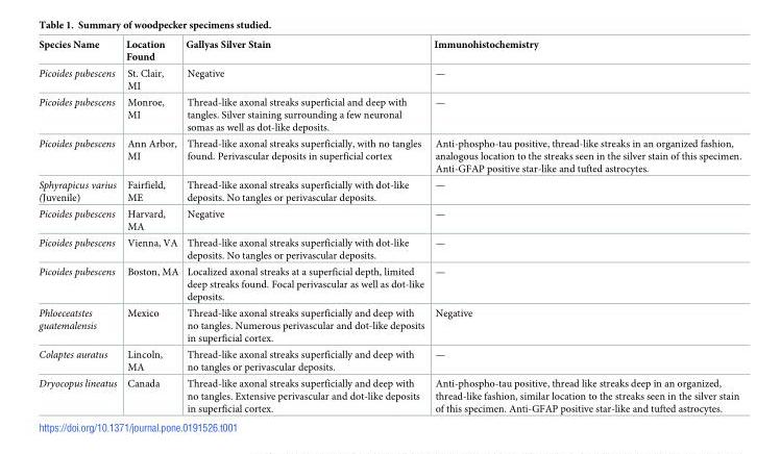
<table><thead><tr><td>Species Name</td><td>Location Found</td><td>Gallyas Silver Stain</td><td>Immunohistochemistry</td></tr></thead><tbody><tr><td>Picoides pubescens</td><td>St. Clair, MI</td><td>Negative</td><td>—</td></tr><tr><td>Picoides pubescens</td><td>Monroe, MI</td><td>Thread-like axonal streaks superficial and deep with tangles. Silver staining surrounding a few neuronal somas as well as dot-like deposits.</td><td>—</td></tr><tr><td>Picoides pubescens</td><td>Ann Arbor, MI</td><td>Thread-like axonal streaks superficially, with no tangles found. Perivascular deposits in superficial cortex</td><td>Anti-phospho-tau positive, thread-like streaks in an organized fashion, analogous location to the streaks seen in the silver stain of this specimen. Anti-GFAP positive star-like and tufted astrocytes.</td></tr><tr><td>Sphyrapicus varius (Juvenile)</td><td>Fairfield, ME</td><td>Thread-like axonal streaks superficially with dot-like deposits. No tangles or perivascular deposits.</td><td>—</td></tr><tr><td>Picoides pubescens</td><td>Harvard, MA</td><td>Negative</td><td>—</td></tr><tr><td>Picoides pubescens</td><td>Vienna, VA</td><td>Thread-like axonal streaks superficially with dot-like deposits. No tangles or perivascular deposits.</td><td>—</td></tr><tr><td>Picoides pubescens</td><td>Boston, MA</td><td>Localized axonal streaks at a superficial depth, limited deep streaks found. Focal perivascular as well as dot-like deposits.</td><td>—</td></tr><tr><td>Phloeceatstes guatemalensis</td><td>Mexico</td><td>Thread-like axonal streaks superficially and deep with no tangles. Numerous perivascular and dot-like deposits in superficial cortex.</td><td>Negative</td></tr><tr><td>Colaptes auratus</td><td>Lincoln, MA</td><td>Thread-like axonal streaks superficially and deep with no tangles or perivascular deposits.</td><td>—</td></tr><tr><td>Dryocopus lineatus</td><td>Canada</td><td>Thread-like axonal streaks superficially and deep with no tangles. Extensive perivascular and dot-like deposits in superficial cortex.</td><td>Anti-phospho-tau positive, thread like streaks deep in an organized, thread-like fashion, similar location to the streaks seen in the silver stain of this specimen. Anti-GFAP positive star-like and tufted astrocytes.</td></tr></tbody></table>